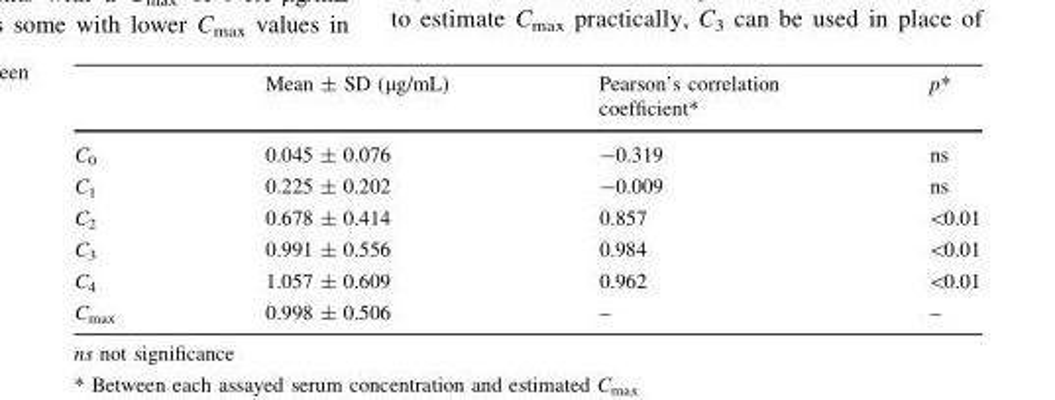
<table><thead><tr><td></td><td>Mean ± SD (μg/mL)</td><td>Pearson’s correlation coefficient*</td><td>p*</td></tr></thead><tbody><tr><td>C<sub>0</sub></td><td>0.045 ± 0.076</td><td>-0.319</td><td>ns</td></tr><tr><td>C<sub>1</sub></td><td>0.225 ± 0.202</td><td>-0.009</td><td>ns</td></tr><tr><td>C<sub>2</sub></td><td>0.678 ± 0.414</td><td>0.857</td><td>&lt;0.01</td></tr><tr><td>C<sub>3</sub></td><td>0.991 ± 0.556</td><td>0.984</td><td>&lt;0.01</td></tr><tr><td>C<sub>4</sub></td><td>1.057 ± 0.609</td><td>0.962</td><td>&lt;0.01</td></tr><tr><td>C<sub>max</sub></td><td>0.998 ± 0.506</td><td>–</td><td>–</td></tr></tbody></table>